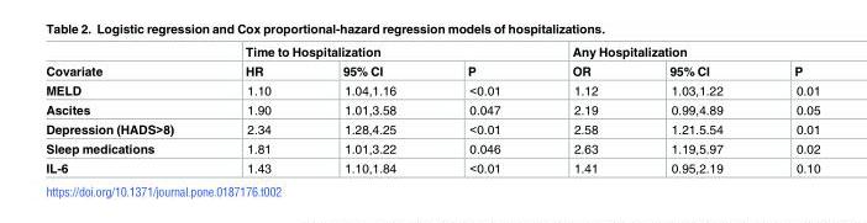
<table><thead><tr><td rowspan="2">Covariate</td><td colspan="3">Time to Hospitalization</td><td colspan="3">Any Hospitalization</td></tr><tr><td>HR</td><td>95% CI</td><td>P</td><td>OR</td><td>95% CI</td><td>P</td></tr></thead><tbody><tr><td>MELD</td><td>1.10</td><td>1.04,1.16</td><td>&lt;0.01</td><td>1.12</td><td>1.03,1.22</td><td>0.01</td></tr><tr><td>Ascites</td><td>1.90</td><td>1.01,3.58</td><td>0.047</td><td>2.19</td><td>0.99,4.89</td><td>0.05</td></tr><tr><td>Depression (HADS&gt;8)</td><td>2.34</td><td>1.28,4.25</td><td>&lt;0.01</td><td>2.58</td><td>1.21.5.54</td><td>0.01</td></tr><tr><td>Sleep medications</td><td>1.81</td><td>1.01,3.22</td><td>0.046</td><td>2.63</td><td>1.19,5.97</td><td>0.02</td></tr><tr><td>IL-6</td><td>1.43</td><td>1.10,1.84</td><td>&lt;0.01</td><td>1.41</td><td>0.95,2.19</td><td>0.10</td></tr></tbody></table>